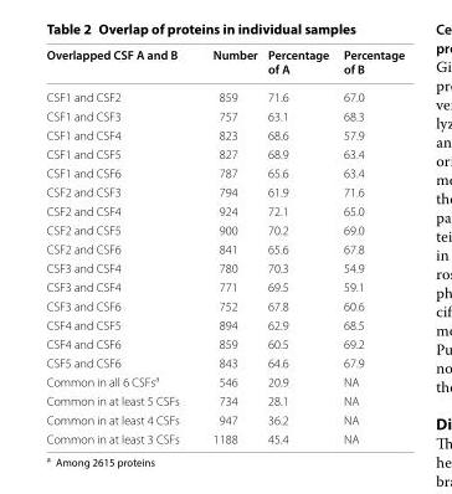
<table><thead><tr><td>Overlapped CSF A and B</td><td>Number</td><td>Percentage of A</td><td>Percentage of B</td></tr></thead><tbody><tr><td>CSF1 and CSF2</td><td>859</td><td>71.6</td><td>67.0</td></tr><tr><td>CSF1 and CSF3</td><td>757</td><td>63.1</td><td>68.3</td></tr><tr><td>CSF1 and CSF4</td><td>823</td><td>68.6</td><td>57.9</td></tr><tr><td>CSF1 and CSF5</td><td>827</td><td>68.9</td><td>63.4</td></tr><tr><td>CSF1 and CSF6</td><td>787</td><td>65.6</td><td>63.4</td></tr><tr><td>CSF2 and CSF3</td><td>794</td><td>61.9</td><td>71.6</td></tr><tr><td>CSF2 and CSF4</td><td>924</td><td>72.1</td><td>65.0</td></tr><tr><td>CSF2 and CSF5</td><td>900</td><td>70.2</td><td>69.0</td></tr><tr><td>CSF2 and CSF6</td><td>841</td><td>65.6</td><td>67.8</td></tr><tr><td>CSF3 and CSF4</td><td>780</td><td>70.3</td><td>54.9</td></tr><tr><td>CSF3 and CSF4</td><td>771</td><td>69.5</td><td>59.1</td></tr><tr><td>CSF3 and CSF6</td><td>752</td><td>67.8</td><td>60.6</td></tr><tr><td>CSF4 and CSF5</td><td>894</td><td>62.9</td><td>68.5</td></tr><tr><td>CSF4 and CSF6</td><td>859</td><td>60.5</td><td>69.2</td></tr><tr><td>CSF5 and CSF6</td><td>843</td><td>64.6</td><td>67.9</td></tr><tr><td>Common in all 6 CSFs<sup>a</sup></td><td>546</td><td>20.9</td><td>NA</td></tr><tr><td>Common in at least 5 CSFs</td><td>734</td><td>28.1</td><td>NA</td></tr><tr><td>Common in at least 4 CSFs</td><td>947</td><td>36.2</td><td>NA</td></tr><tr><td>Common in at least 3 CSFs</td><td>1188</td><td>45.4</td><td>NA</td></tr></tbody></table>